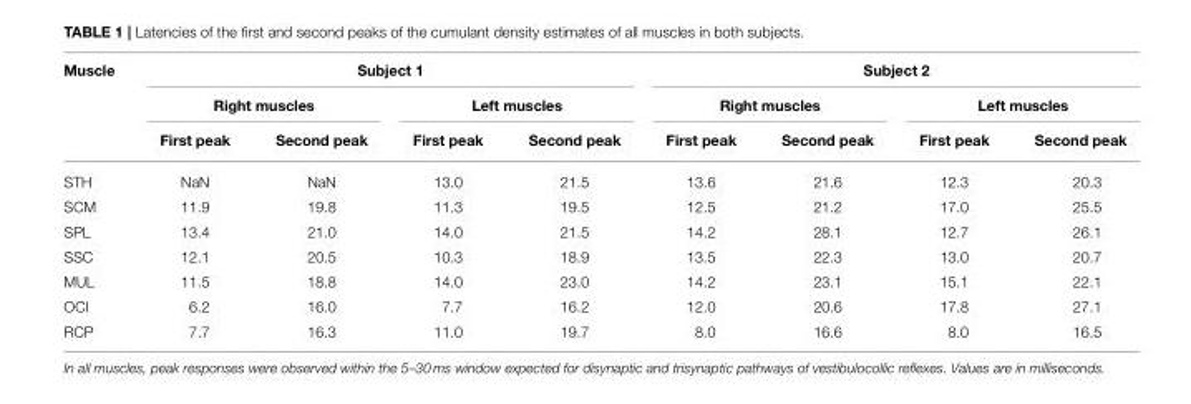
<table><thead><tr><td rowspan="3">Muscle</td><td colspan="4">Subject 1</td><td colspan="4">Subject 2</td></tr><tr><td colspan="2">Right muscles</td><td colspan="2">Left muscles</td><td colspan="2">Right muscles</td><td colspan="2">Left muscles</td></tr><tr><td>First peak</td><td>Second peak</td><td>First peak</td><td>Second peak</td><td>First peak</td><td>Second peak</td><td>First peak</td><td>Second peak</td></tr></thead><tbody><tr><td>STH</td><td>NaN</td><td>NaN</td><td>13.0</td><td>21.5</td><td>13.6</td><td>21.6</td><td>12.3</td><td>20.3</td></tr><tr><td>SCM</td><td>11.9</td><td>19.8</td><td>11.3</td><td>19.5</td><td>12.5</td><td>21.2</td><td>17.0</td><td>25.5</td></tr><tr><td>SPL</td><td>13.4</td><td>21.0</td><td>14.0</td><td>21.5</td><td>14.2</td><td>28.1</td><td>12.7</td><td>26.1</td></tr><tr><td>SSC</td><td>12.1</td><td>20.5</td><td>10.3</td><td>18.9</td><td>13.5</td><td>22.3</td><td>13.0</td><td>20.7</td></tr><tr><td>MUL</td><td>11.5</td><td>18.8</td><td>14.0</td><td>23.0</td><td>14.2</td><td>23.1</td><td>15.1</td><td>22.1</td></tr><tr><td>OCI</td><td>6.2</td><td>16.0</td><td>7.7</td><td>16.2</td><td>12.0</td><td>20.6</td><td>17.8</td><td>27.1</td></tr><tr><td>RCP</td><td>7.7</td><td>16.3</td><td>11.0</td><td>19.7</td><td>8.0</td><td>16.6</td><td>8.0</td><td>16.5</td></tr></tbody></table>